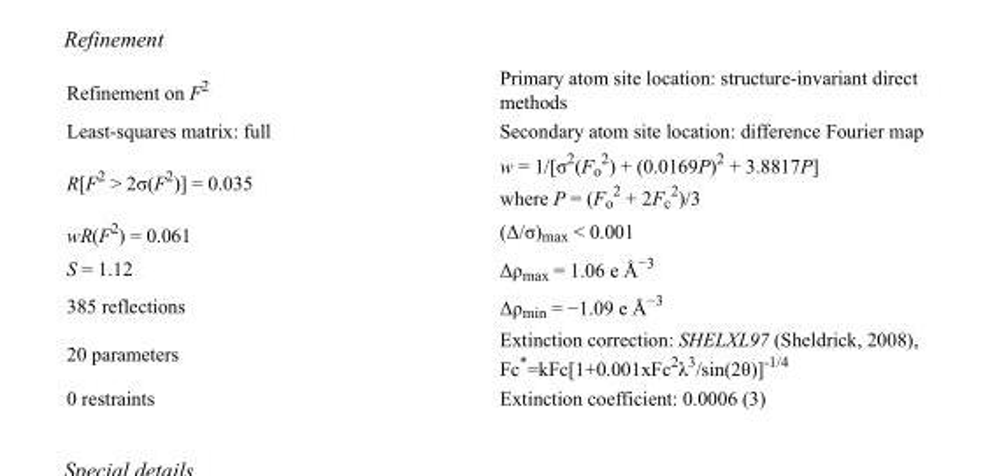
<table><tbody><tr><td>Refinement on F<sup>2</sup></td><td>Primary atom site location: structure-invariant direct methods</td></tr><tr><td>Least-squares matrix: full</td><td>Secondary atom site location: difference Fourier map</td></tr><tr><td>R[F<sup>2</sup> &gt; 2σ(F<sup>2</sup>)] = 0.035</td><td>w = 1/[σ<sup>2</sup>(F<sub>o</sub> <sup>2</sup>) + (0.0169P)<sup>2</sup> + 3.8817P] where P = (F<sub>o</sub> <sup>2</sup> + 2F<sub>c</sub> <sup>2</sup>)/3</td></tr><tr><td>wR(F<sup>2</sup>) = 0.061</td><td>(Δ/σ)<sub>max</sub> &lt; 0.001</td></tr><tr><td>S = 1.12</td><td>Δρ<sub>max</sub> = 1.06 e Å<sup>−3</sup></td></tr><tr><td>385 reflections</td><td>Δρ<sub>min</sub> = −1.09 e Å<sup>−3</sup></td></tr><tr><td>20 parameters</td><td>Extinction correction: SHELXL97 (Sheldrick, 2008), Fc*=kFc[1+0.001xFc<sup>2</sup>λ<sup>3</sup>/sin(2θ)]<sup>-1/4</sup></td></tr><tr><td>0 restraints</td><td>Extinction coefficient: 0.0006 (3)</td></tr></tbody></table>